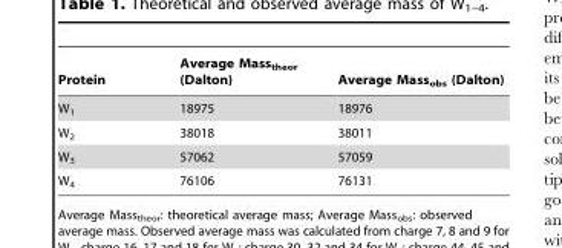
<table><thead><tr><td>Protein</td><td>Average Mass<sub>theor</sub> (Dalton)</td><td>Average Mass<sub>obs</sub> (Dalton)</td></tr></thead><tbody><tr><td>W<sub>1</sub></td><td>18975</td><td>18976</td></tr><tr><td>W<sub>2</sub></td><td>38018</td><td>38011</td></tr><tr><td>W<sub>3</sub></td><td>57062</td><td>57059</td></tr><tr><td>W<sub>4</sub></td><td>76106</td><td>76131</td></tr></tbody></table>